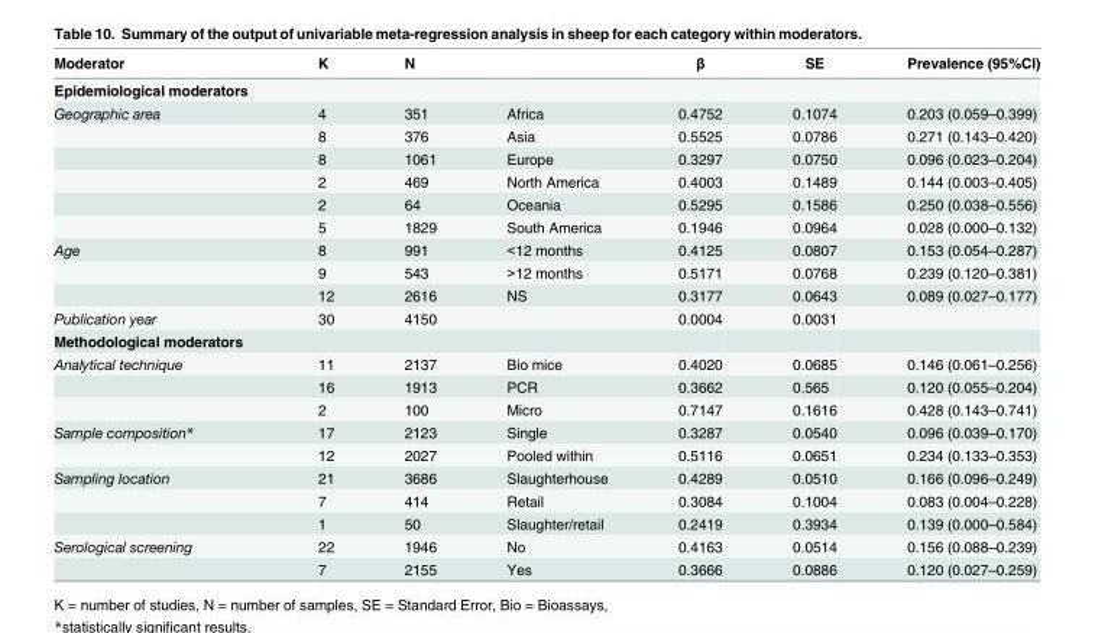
<table><thead><tr><td>Moderator</td><td>K</td><td>N</td><td></td><td>β</td><td>SE</td><td>Prevalence (95%CI)</td></tr></thead><tbody><tr><td colspan="7">Epidemiological moderators</td></tr><tr><td rowspan="6">Geographic area</td><td>4</td><td>351</td><td>Africa</td><td>0.4752</td><td>0.1074</td><td>0.203 (0.059–0.399)</td></tr><tr><td>8</td><td>376</td><td>Asia</td><td>0.5525</td><td>0.0786</td><td>0.271 (0.143–0.420)</td></tr><tr><td>8</td><td>1061</td><td>Europe</td><td>0.3297</td><td>0.0750</td><td>0.096 (0.023–0.204)</td></tr><tr><td>2</td><td>469</td><td>North America</td><td>0.4003</td><td>0.1489</td><td>0.144 (0.003–0.405)</td></tr><tr><td>2</td><td>64</td><td>Oceania</td><td>0.5295</td><td>0.1586</td><td>0.250 (0.038–0.556)</td></tr><tr><td>5</td><td>1829</td><td>South America</td><td>0.1946</td><td>0.0964</td><td>0.028 (0.000–0.132)</td></tr><tr><td rowspan="3">Age</td><td>8</td><td>991</td><td>&lt;12 months</td><td>0.4125</td><td>0.0807</td><td>0.153 (0.054–0.287)</td></tr><tr><td>9</td><td>543</td><td>&gt;12 months</td><td>0.5171</td><td>0.0768</td><td>0.239 (0.120–0.381)</td></tr><tr><td>12</td><td>2616</td><td>NS</td><td>0.3177</td><td>0.0643</td><td>0.089 (0.027–0.177)</td></tr><tr><td>Publication year</td><td>30</td><td>4150</td><td></td><td>0.0004</td><td>0.0031</td><td></td></tr><tr><td colspan="7">Methodological moderators</td></tr><tr><td rowspan="3">Analytical technique</td><td>11</td><td>2137</td><td>Bio mice</td><td>0.4020</td><td>0.0685</td><td>0.146 (0.061–0.256)</td></tr><tr><td>16</td><td>1913</td><td>PCR</td><td>0.3662</td><td>0.565</td><td>0.120 (0.055–0.204)</td></tr><tr><td>2</td><td>100</td><td>Micro</td><td>0.7147</td><td>0.1616</td><td>0.428 (0.143–0.741)</td></tr><tr><td rowspan="2">Sample composition*</td><td>17</td><td>2123</td><td>Single</td><td>0.3287</td><td>0.0540</td><td>0.096 (0.039–0.170)</td></tr><tr><td>12</td><td>2027</td><td>Pooled within</td><td>0.5116</td><td>0.0651</td><td>0.234 (0.133–0.353)</td></tr><tr><td rowspan="3">Sampling location</td><td>21</td><td>3686</td><td>Slaughterhouse</td><td>0.4289</td><td>0.0510</td><td>0.166 (0.096–0.249)</td></tr><tr><td>7</td><td>414</td><td>Retail</td><td>0.3084</td><td>0.1004</td><td>0.083 (0.004–0.228)</td></tr><tr><td>1</td><td>50</td><td>Slaughter/retail</td><td>0.2419</td><td>0.3934</td><td>0.139 (0.000–0.584)</td></tr><tr><td rowspan="2">Serological screening</td><td>22</td><td>1946</td><td>No</td><td>0.4163</td><td>0.0514</td><td>0.156 (0.088–0.239)</td></tr><tr><td>7</td><td>2155</td><td>Yes</td><td>0.3666</td><td>0.0886</td><td>0.120 (0.027–0.259)</td></tr></tbody></table>